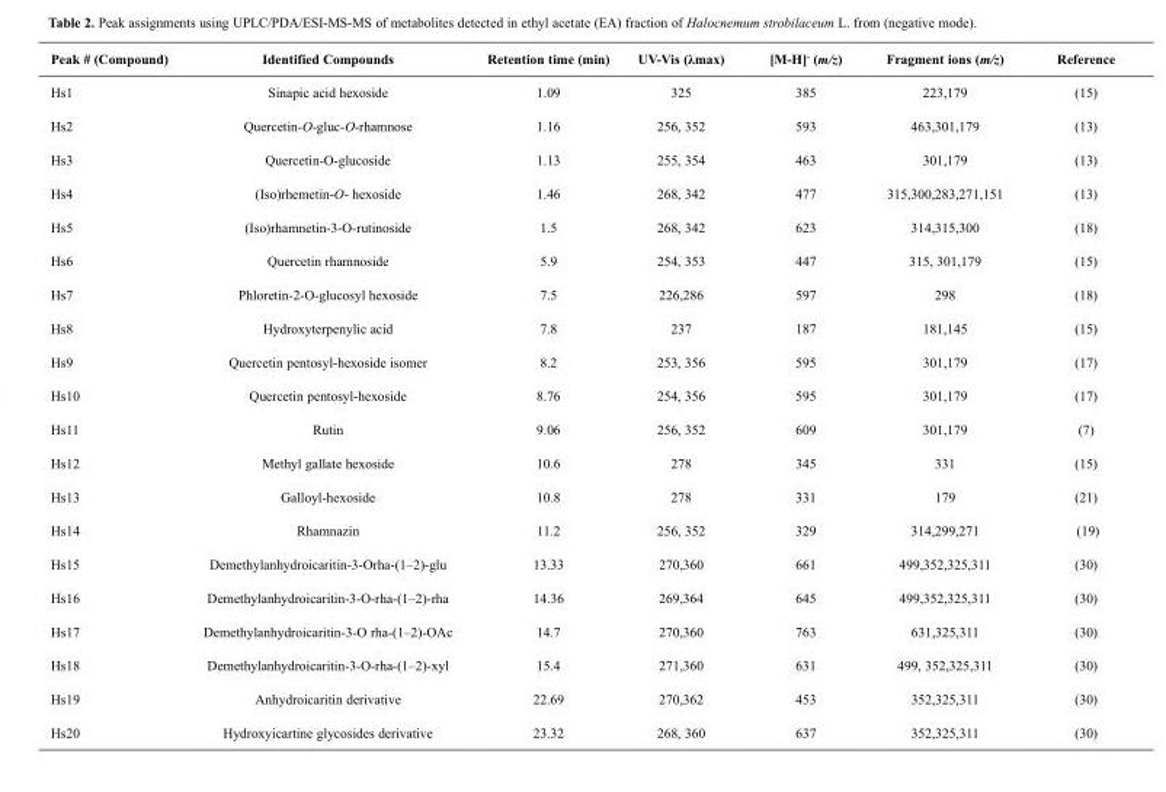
<table><thead><tr><td>Peak # (Compound)</td><td>Identified Compounds</td><td>Retention time (min)</td><td>UV-Vis (λmax)</td><td>[M-H]- (m/z)</td><td>Fragment ions (m/z)</td><td>Reference</td></tr></thead><tbody><tr><td>Hs1</td><td>Sinapic acid hexoside</td><td>1.09</td><td>325</td><td>385</td><td>223,179</td><td>(15)</td></tr><tr><td>Hs2</td><td>Quercetin-O-gluc-O-rhamnose</td><td>1.16</td><td>256, 352</td><td>593</td><td>463,301,179</td><td>(13)</td></tr><tr><td>Hs3</td><td>Quercetin-O-glucoside</td><td>1.13</td><td>255, 354</td><td>463</td><td>301,179</td><td>(13)</td></tr><tr><td>Hs4</td><td>(Iso)rhemetin-O- hexoside</td><td>1.46</td><td>268, 342</td><td>477</td><td>315,300,283,271,151</td><td>(13)</td></tr><tr><td>Hs5</td><td>(Iso)rhamnetin-3-O-rutinoside</td><td>1.5</td><td>268, 342</td><td>623</td><td>314,315,300</td><td>(18)</td></tr><tr><td>Hs6</td><td>Quercetin rhamnoside</td><td>5.9</td><td>254, 353</td><td>447</td><td>315, 301,179</td><td>(15)</td></tr><tr><td>Hs7</td><td>Phloretin-2-O-glucosyl hexoside</td><td>7.5</td><td>226,286</td><td>597</td><td>298</td><td>(18)</td></tr><tr><td>Hs8</td><td>Hydroxyterpenylic acid</td><td>7.8</td><td>237</td><td>187</td><td>181,145</td><td>(15)</td></tr><tr><td>Hs9</td><td>Quercetin pentosyl-hexoside isomer</td><td>8.2</td><td>253, 356</td><td>595</td><td>301,179</td><td>(17)</td></tr><tr><td>Hs10</td><td>Quercetin pentosyl-hexoside</td><td>8.76</td><td>254, 356</td><td>595</td><td>301,179</td><td>(17)</td></tr><tr><td>Hs11</td><td>Rutin</td><td>9.06</td><td>256, 352</td><td>609</td><td>301,179</td><td>(7)</td></tr><tr><td>Hs12</td><td>Methyl gallate hexoside</td><td>10.6</td><td>278</td><td>345</td><td>331</td><td>(15)</td></tr><tr><td>Hs13</td><td>Galloyl-hexoside</td><td>10.8</td><td>278</td><td>331</td><td>179</td><td>(21)</td></tr><tr><td>Hs14</td><td>Rhamnazin</td><td>11.2</td><td>256, 352</td><td>329</td><td>314,299,271</td><td>(19)</td></tr><tr><td>Hs15</td><td>Demethylanhydroicaritin-3-Orha-(1–2)-glu</td><td>13.33</td><td>270,360</td><td>661</td><td>499,352,325,311</td><td>(30)</td></tr><tr><td>Hs16</td><td>Demethylanhydroicaritin-3-O-rha-(1–2)-rha</td><td>14.36</td><td>269,364</td><td>645</td><td>499,352,325,311</td><td>(30)</td></tr><tr><td>Hs17</td><td>Demethylanhydroicaritin-3-O rha-(1–2)-OAc</td><td>14.7</td><td>270,360</td><td>763</td><td>631,325,311</td><td>(30)</td></tr><tr><td>Hs18</td><td>Demethylanhydroicaritin-3-O-rha-(1–2)-xyl</td><td>15.4</td><td>271,360</td><td>631</td><td>499, 352,325,311</td><td>(30)</td></tr><tr><td>Hs19</td><td>Anhydroicaritin derivative</td><td>22.69</td><td>270,362</td><td>453</td><td>352,325,311</td><td>(30)</td></tr><tr><td>Hs20</td><td>Hydroxyicartine glycosides derivative</td><td>23.32</td><td>268, 360</td><td>637</td><td>352,325,311</td><td>(30)</td></tr></tbody></table>